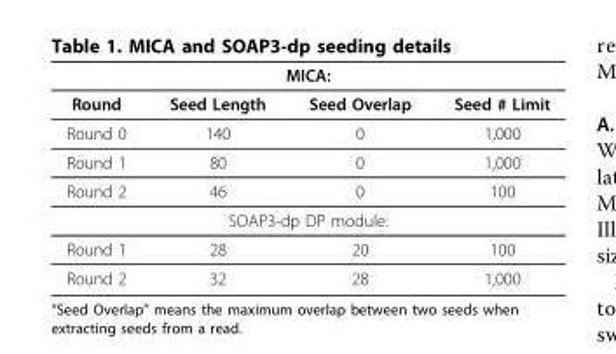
<table><thead><tr><td colspan="4">MICA:</td></tr><tr><td>Round</td><td>Seed Length</td><td>Seed Overlap</td><td>Seed # Limit</td></tr></thead><tbody><tr><td>Round 0</td><td>140</td><td>0</td><td>1,000</td></tr><tr><td>Round 1</td><td>80</td><td>0</td><td>1,000</td></tr><tr><td>Round 2</td><td>46</td><td>0</td><td>100</td></tr><tr><td colspan="4">SOAP3-dp DP module:</td></tr><tr><td>Round 1</td><td>28</td><td>20</td><td>100</td></tr><tr><td>Round 2</td><td>32</td><td>28</td><td>1,000</td></tr></tbody></table>